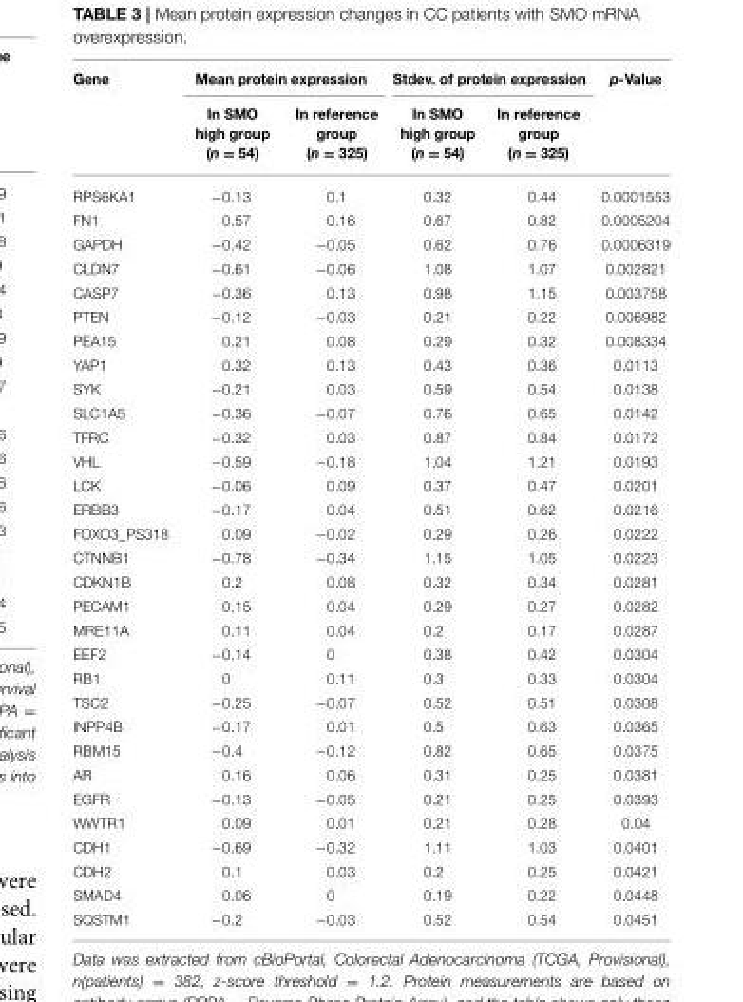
<table><thead><tr><td rowspan="2">Gene</td><td colspan="2">Mean protein expression</td><td colspan="2">Stdev. of protein expression</td><td rowspan="2">p-Value</td></tr><tr><td>In SMO high group (n = 54)</td><td>In reference group (n = 325)</td><td>In SMO high group (n = 54)</td><td>In reference group (n = 325)</td></tr></thead><tbody><tr><td>RPS6KA1</td><td>−0.13</td><td>0.1</td><td>0.32</td><td>0.44</td><td>0.0001553</td></tr><tr><td>FN1</td><td>0.57</td><td>0.16</td><td>0.67</td><td>0.82</td><td>0.0005204</td></tr><tr><td>GAPDH</td><td>−0.42</td><td>−0.05</td><td>0.62</td><td>0.76</td><td>0.0006319</td></tr><tr><td>CLDN7</td><td>−0.61</td><td>−0.06</td><td>1.08</td><td>1.07</td><td>0.002821</td></tr><tr><td>CASP7</td><td>−0.36</td><td>0.13</td><td>0.98</td><td>1.15</td><td>0.003758</td></tr><tr><td>PTEN</td><td>−0.12</td><td>−0.03</td><td>0.21</td><td>0.22</td><td>0.006982</td></tr><tr><td>PEA15</td><td>0.21</td><td>0.08</td><td>0.29</td><td>0.32</td><td>0.008334</td></tr><tr><td>YAP1</td><td>0.32</td><td>0.13</td><td>0.43</td><td>0.36</td><td>0.0113</td></tr><tr><td>SYK</td><td>−0.21</td><td>0.03</td><td>0.59</td><td>0.54</td><td>0.0138</td></tr><tr><td>SLC1A5</td><td>−0.36</td><td>−0.07</td><td>0.76</td><td>0.65</td><td>0.0142</td></tr><tr><td>TFRC</td><td>−0.32</td><td>0.03</td><td>0.87</td><td>0.84</td><td>0.0172</td></tr><tr><td>VHL</td><td>−0.59</td><td>−0.18</td><td>1.04</td><td>1.21</td><td>0.0193</td></tr><tr><td>LCK</td><td>−0.06</td><td>0.09</td><td>0.37</td><td>0.47</td><td>0.0201</td></tr><tr><td>ERBB3</td><td>−0.17</td><td>0.04</td><td>0.51</td><td>0.62</td><td>0.0216</td></tr><tr><td>FOXO3_PS318</td><td>0.09</td><td>−0.02</td><td>0.29</td><td>0.26</td><td>0.0222</td></tr><tr><td>CTNNB1</td><td>−0.78</td><td>−0.34</td><td>1.15</td><td>1.05</td><td>0.0223</td></tr><tr><td>CDKN1B</td><td>0.2</td><td>0.08</td><td>0.32</td><td>0.34</td><td>0.0281</td></tr><tr><td>PECAM1</td><td>0.15</td><td>0.04</td><td>0.29</td><td>0.27</td><td>0.0282</td></tr><tr><td>MRE11A</td><td>0.11</td><td>0.04</td><td>0.2</td><td>0.17</td><td>0.0287</td></tr><tr><td>EEF2</td><td>−0.14</td><td>0</td><td>0.38</td><td>0.42</td><td>0.0304</td></tr><tr><td>RB1</td><td>0</td><td>0.11</td><td>0.3</td><td>0.33</td><td>0.0304</td></tr><tr><td>TSC2</td><td>−0.25</td><td>−0.07</td><td>0.52</td><td>0.51</td><td>0.0308</td></tr><tr><td>INPP4B</td><td>−0.17</td><td>0.01</td><td>0.5</td><td>0.63</td><td>0.0365</td></tr><tr><td>RBM15</td><td>−0.4</td><td>−0.12</td><td>0.82</td><td>0.65</td><td>0.0375</td></tr><tr><td>AR</td><td>0.16</td><td>0.06</td><td>0.31</td><td>0.25</td><td>0.0381</td></tr><tr><td>EGFR</td><td>−0.13</td><td>−0.05</td><td>0.21</td><td>0.25</td><td>0.0393</td></tr><tr><td>WWTR1</td><td>0.09</td><td>0.01</td><td>0.21</td><td>0.28</td><td>0.04</td></tr><tr><td>CDH1</td><td>−0.69</td><td>−0.32</td><td>1.11</td><td>1.03</td><td>0.0401</td></tr><tr><td>CDH2</td><td>0.1</td><td>0.03</td><td>0.2</td><td>0.25</td><td>0.0421</td></tr><tr><td>SMAD4</td><td>0.06</td><td>0</td><td>0.19</td><td>0.22</td><td>0.0448</td></tr><tr><td>SQSTM1</td><td>−0.2</td><td>−0.03</td><td>0.52</td><td>0.54</td><td>0.0451</td></tr></tbody></table>